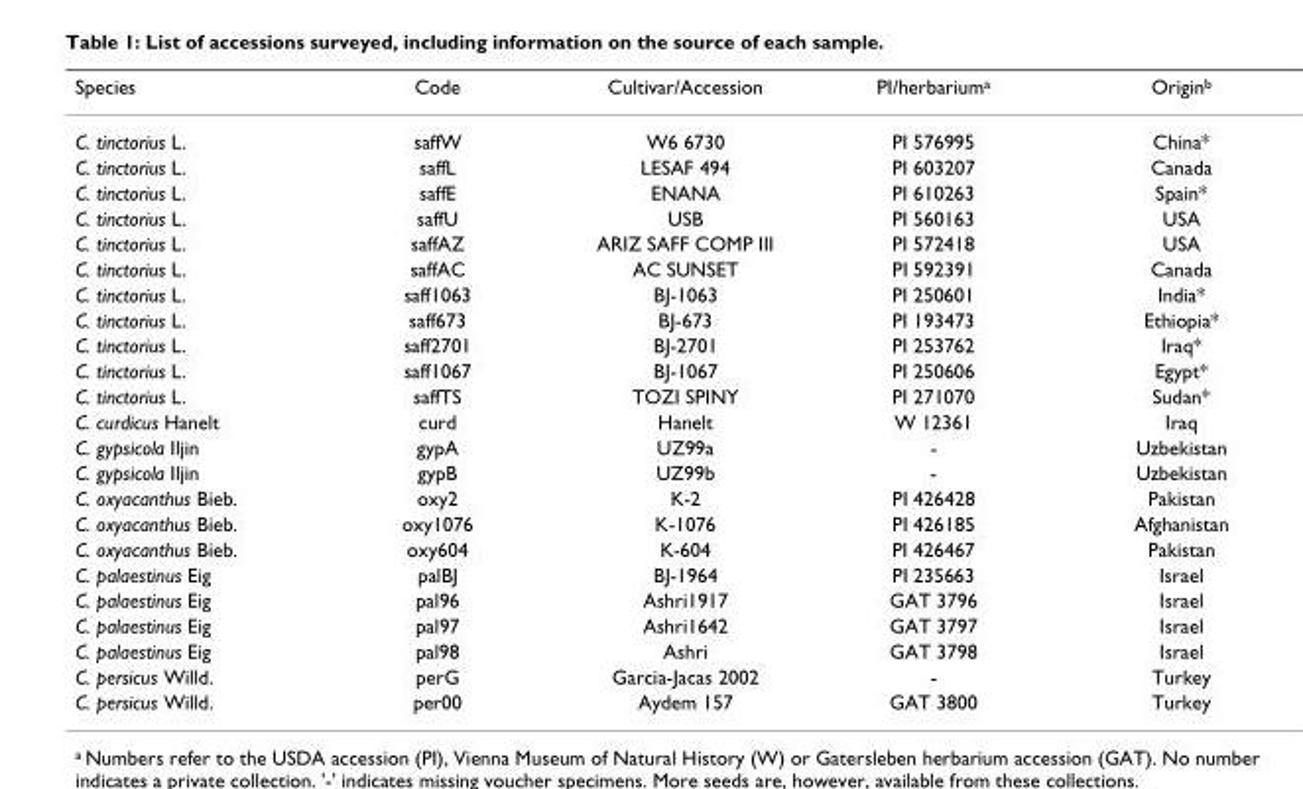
<table><thead><tr><td>Species</td><td>Code</td><td>Cultivar/Accession</td><td>PI/herbarium<sup>a</sup></td><td>Origin<sup>b</sup></td></tr></thead><tbody><tr><td>C. tinctorius L.</td><td>saffW</td><td>W6 6730</td><td>PI 576995</td><td>China*</td></tr><tr><td>C. tinctorius L.</td><td>saffL</td><td>LESAF 494</td><td>PI 603207</td><td>Canada</td></tr><tr><td>C. tinctorius L.</td><td>saffE</td><td>ENANA</td><td>PI 610263</td><td>Spain*</td></tr><tr><td>C. tinctorius L.</td><td>saffU</td><td>USB</td><td>PI 560163</td><td>USA</td></tr><tr><td>C. tinctorius L.</td><td>saffAZ</td><td>ARIZ SAFF COMP III</td><td>PI 572418</td><td>USA</td></tr><tr><td>C. tinctorius L.</td><td>saffAC</td><td>AC SUNSET</td><td>PI 592391</td><td>Canada</td></tr><tr><td>C. tinctorius L.</td><td>saff1063</td><td>BJ-1063</td><td>PI 250601</td><td>India*</td></tr><tr><td>C. tinctorius L.</td><td>saff673</td><td>BJ-673</td><td>PI 193473</td><td>Ethiopia*</td></tr><tr><td>C. tinctorius L.</td><td>saff2701</td><td>BJ-2701</td><td>PI 253762</td><td>Iraq*</td></tr><tr><td>C. tinctorius L.</td><td>saff1067</td><td>BJ-1067</td><td>PI 250606</td><td>Egypt*</td></tr><tr><td>C. tinctorius L.</td><td>saffTS</td><td>TOZI SPINY</td><td>PI 271070</td><td>Sudan*</td></tr><tr><td>C. curdicus Hanelt</td><td>curd</td><td>Hanelt</td><td>W 12361</td><td>Iraq</td></tr><tr><td>C. gypsicola Iljin</td><td>gypA</td><td>UZ99a</td><td>-</td><td>Uzbekistan</td></tr><tr><td>C. gypsicola Iljin</td><td>gypB</td><td>UZ99b</td><td>-</td><td>Uzbekistan</td></tr><tr><td>C. oxyacanthus Bieb.</td><td>oxy2</td><td>K-2</td><td>PI 426428</td><td>Pakistan</td></tr><tr><td>C. oxyacanthus Bieb.</td><td>oxy1076</td><td>K-1076</td><td>PI 426185</td><td>Afghanistan</td></tr><tr><td>C. oxyacanthus Bieb.</td><td>oxy604</td><td>K-604</td><td>PI 426467</td><td>Pakistan</td></tr><tr><td>C. palaestinus Eig</td><td>palBJ</td><td>BJ-1964</td><td>PI 235663</td><td>Israel</td></tr><tr><td>C. palaestinus Eig</td><td>pal96</td><td>Ashri1917</td><td>GAT 3796</td><td>Israel</td></tr><tr><td>C. palaestinus Eig</td><td>pal97</td><td>Ashri1642</td><td>GAT 3797</td><td>Israel</td></tr><tr><td>C. palaestinus Eig</td><td>pal98</td><td>Ashri</td><td>GAT 3798</td><td>Israel</td></tr><tr><td>C. persicus Willd.</td><td>perG</td><td>Garcia-Jacas 2002</td><td>-</td><td>Turkey</td></tr><tr><td>C. persicus Willd.</td><td>per00</td><td>Aydem 157</td><td>GAT 3800</td><td>Turkey</td></tr></tbody></table>